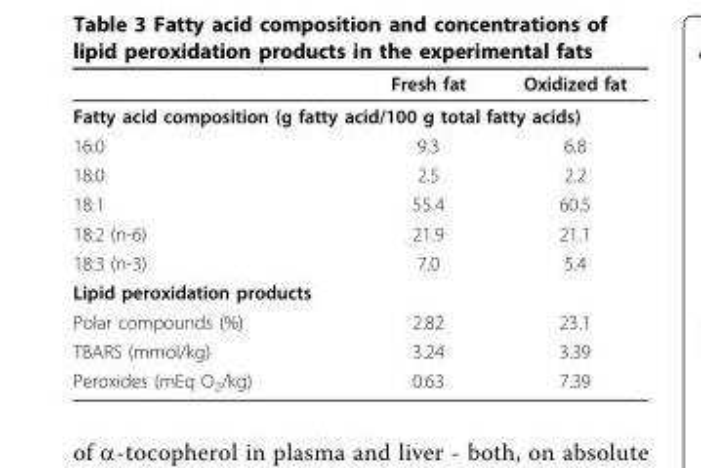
<table><thead><tr><td></td><td>Fresh fat</td><td>Oxidized fat</td></tr></thead><tbody><tr><td colspan="3">Fatty acid composition (g fatty acid/100 g total fatty acids)</td></tr><tr><td>16:0</td><td>9.3</td><td>6.8</td></tr><tr><td>18:0</td><td>2.5</td><td>2.2</td></tr><tr><td>18:1</td><td>55.4</td><td>60.5</td></tr><tr><td>18:2 (n-6)</td><td>21.9</td><td>21.1</td></tr><tr><td>18:3 (n-3)</td><td>7.0</td><td>5.4</td></tr><tr><td colspan="3">Lipid peroxidation products</td></tr><tr><td>Polar compounds (%)</td><td>2.82</td><td>23.1</td></tr><tr><td>TBARS (mmol/kg)</td><td>3.24</td><td>3.39</td></tr><tr><td>Peroxides (mEq O<sub>2</sub>/kg)</td><td>0.63</td><td>7.39</td></tr></tbody></table>